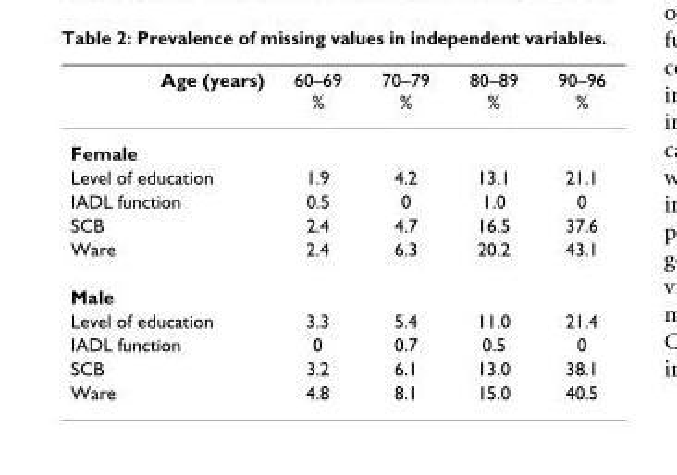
<table><thead><tr><td>Age (years)</td><td>60–69 %</td><td>70–79 %</td><td>80–89 %</td><td>90–96 %</td></tr></thead><tbody><tr><td colspan="5">Female</td></tr><tr><td>Level of education</td><td>1.9</td><td>4.2</td><td>13.1</td><td>21.1</td></tr><tr><td>IADL function</td><td>0.5</td><td>0</td><td>1.0</td><td>0</td></tr><tr><td>SCB</td><td>2.4</td><td>4.7</td><td>16.5</td><td>37.6</td></tr><tr><td>Ware</td><td>2.4</td><td>6.3</td><td>20.2</td><td>43.1</td></tr><tr><td colspan="5">Male</td></tr><tr><td>Level of education</td><td>3.3</td><td>5.4</td><td>11.0</td><td>21.4</td></tr><tr><td>IADL function</td><td>0</td><td>0.7</td><td>0.5</td><td>0</td></tr><tr><td>SCB</td><td>3.2</td><td>6.1</td><td>13.0</td><td>38.1</td></tr><tr><td>Ware</td><td>4.8</td><td>8.1</td><td>15.0</td><td>40.5</td></tr></tbody></table>